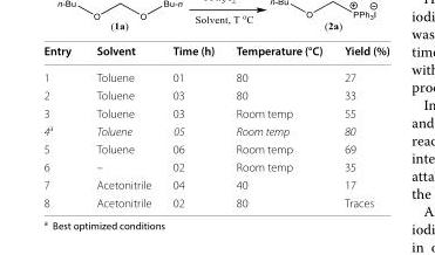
<table><thead><tr><td>Entry</td><td>Solvent</td><td>Time (h)</td><td>Temperature (°C)</td><td>Yield (%)</td></tr></thead><tbody><tr><td>1</td><td>Toluene</td><td>01</td><td>80</td><td>27</td></tr><tr><td>2</td><td>Toluene</td><td>03</td><td>80</td><td>33</td></tr><tr><td>3</td><td>Toluene</td><td>03</td><td>Room temp</td><td>55</td></tr><tr><td>4<sup>a</sup></td><td>Toluene</td><td>05</td><td>Room temp</td><td>80</td></tr><tr><td>5</td><td>Toluene</td><td>06</td><td>Room temp</td><td>69</td></tr><tr><td>6</td><td>–</td><td>02</td><td>Room temp</td><td>35</td></tr><tr><td>7</td><td>Acetonitrile</td><td>04</td><td>40</td><td>17</td></tr><tr><td>8</td><td>Acetonitrile</td><td>02</td><td>80</td><td>Traces</td></tr></tbody></table>